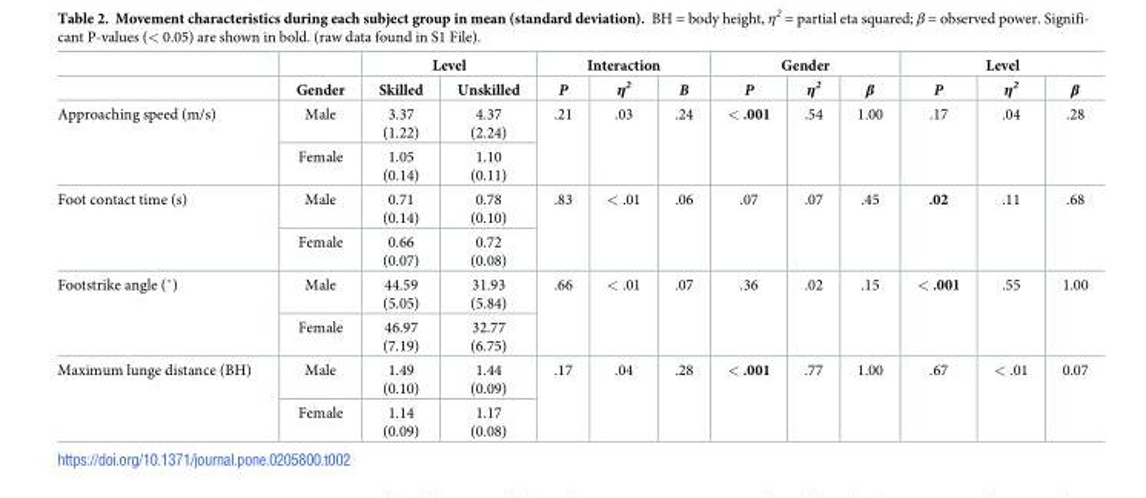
<table><thead><tr><td rowspan="2"></td><td rowspan="2">Gender</td><td colspan="2">Level</td><td colspan="3">Interaction</td><td colspan="3">Gender</td><td colspan="3">Level</td></tr><tr><td>Skilled</td><td>Unskilled</td><td>P</td><td>η<sup>2</sup></td><td>Β</td><td>P</td><td>η<sup>2</sup></td><td>β</td><td>P</td><td>η<sup>2</sup></td><td>β</td></tr></thead><tbody><tr><td rowspan="2">Approaching speed (m/s)</td><td>Male</td><td>3.37 (1.22)</td><td>4.37 (2.24)</td><td rowspan="2">.21</td><td rowspan="2">.03</td><td rowspan="2">.24</td><td rowspan="2">&lt; .001</td><td rowspan="2">.54</td><td rowspan="2">1.00</td><td rowspan="2">.17</td><td rowspan="2">.04</td><td rowspan="2">.28</td></tr><tr><td>Female</td><td>1.05 (0.14)</td><td>1.10 (0.11)</td></tr><tr><td rowspan="2">Foot contact time (s)</td><td>Male</td><td>0.71 (0.14)</td><td>0.78 (0.10)</td><td rowspan="2">.83</td><td rowspan="2">&lt; .01</td><td rowspan="2">.06</td><td rowspan="2">.07</td><td rowspan="2">.07</td><td rowspan="2">.45</td><td rowspan="2">.02</td><td rowspan="2">.11</td><td rowspan="2">.68</td></tr><tr><td>Female</td><td>0.66 (0.07)</td><td>0.72 (0.08)</td></tr><tr><td rowspan="2">Footstrike angle (˚)</td><td>Male</td><td>44.59 (5.05)</td><td>31.93 (5.84)</td><td rowspan="2">.66</td><td rowspan="2">&lt; .01</td><td rowspan="2">.07</td><td rowspan="2">.36</td><td rowspan="2">.02</td><td rowspan="2">.15</td><td rowspan="2">&lt; .001</td><td rowspan="2">.55</td><td rowspan="2">1.00</td></tr><tr><td>Female</td><td>46.97 (7.19)</td><td>32.77 (6.75)</td></tr><tr><td rowspan="2">Maximum lunge distance (BH)</td><td>Male</td><td>1.49 (0.10)</td><td>1.44 (0.09)</td><td rowspan="2">.17</td><td rowspan="2">.04</td><td rowspan="2">.28</td><td rowspan="2">&lt; .001</td><td rowspan="2">.77</td><td rowspan="2">1.00</td><td rowspan="2">.67</td><td rowspan="2">&lt; .01</td><td rowspan="2">0.07</td></tr><tr><td>Female</td><td>1.14 (0.09)</td><td>1.17 (0.08)</td></tr></tbody></table>